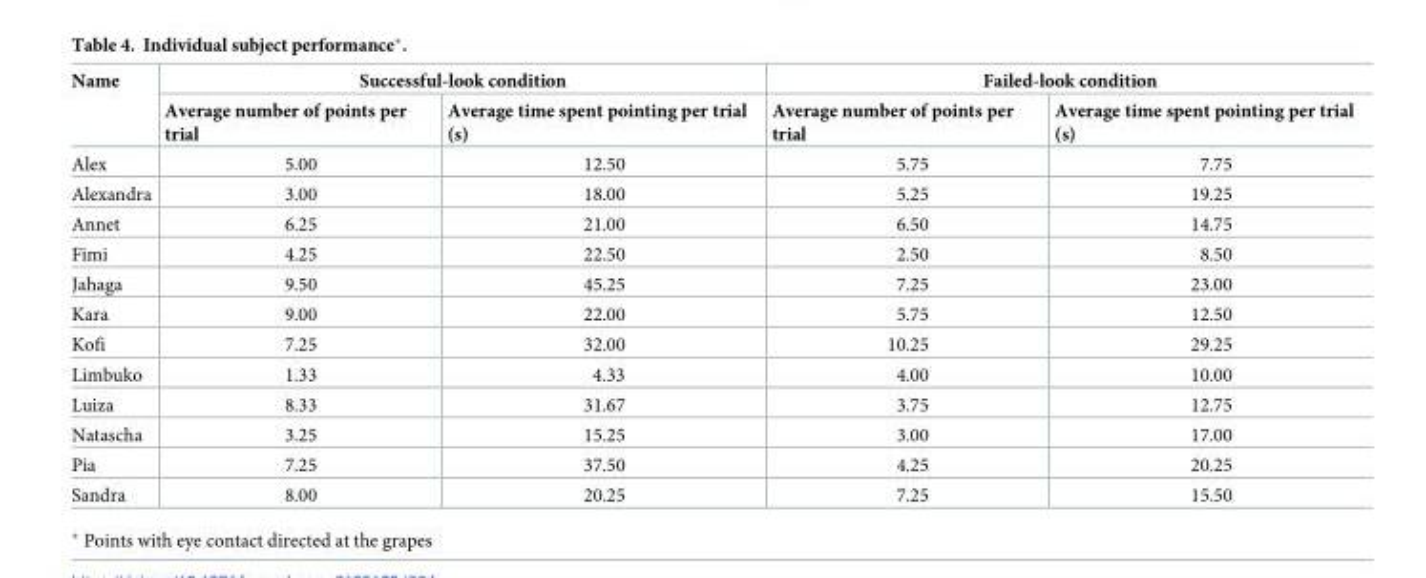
<table><thead><tr><td rowspan="2">Name</td><td colspan="2">Successful-look condition</td><td colspan="2">Failed-look condition</td></tr><tr><td>Average number of points per trial</td><td>Average time spent pointing per trial (s)</td><td>Average number of points per trial</td><td>Average time spent pointing per trial (s)</td></tr></thead><tbody><tr><td>Alex</td><td>5.00</td><td>12.50</td><td>5.75</td><td>7.75</td></tr><tr><td>Alexandra</td><td>3.00</td><td>18.00</td><td>5.25</td><td>19.25</td></tr><tr><td>Annet</td><td>6.25</td><td>21.00</td><td>6.50</td><td>14.75</td></tr><tr><td>Fimi</td><td>4.25</td><td>22.50</td><td>2.50</td><td>8.50</td></tr><tr><td>Jahaga</td><td>9.50</td><td>45.25</td><td>7.25</td><td>23.00</td></tr><tr><td>Kara</td><td>9.00</td><td>22.00</td><td>5.75</td><td>12.50</td></tr><tr><td>Kofi</td><td>7.25</td><td>32.00</td><td>10.25</td><td>29.25</td></tr><tr><td>Limbuko</td><td>1.33</td><td>4.33</td><td>4.00</td><td>10.00</td></tr><tr><td>Luiza</td><td>8.33</td><td>31.67</td><td>3.75</td><td>12.75</td></tr><tr><td>Natascha</td><td>3.25</td><td>15.25</td><td>3.00</td><td>17.00</td></tr><tr><td>Pia</td><td>7.25</td><td>37.50</td><td>4.25</td><td>20.25</td></tr><tr><td>Sandra</td><td>8.00</td><td>20.25</td><td>7.25</td><td>15.50</td></tr></tbody></table>